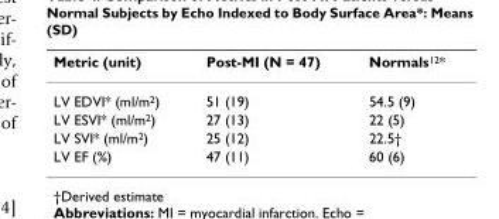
<table><thead><tr><td>Metric (unit)</td><td>Post-MI (N = 47)</td><td>Normals<sup>12</sup>*</td></tr></thead><tbody><tr><td>LV EDVI* (ml/m<sup>2</sup>)</td><td>51 (19)</td><td>54.5 (9)</td></tr><tr><td>LV ESVI* (ml/m<sup>2</sup>)</td><td>27 (13)</td><td>22 (5)</td></tr><tr><td>LV SVI* (ml/m<sup>2</sup>)</td><td>25 (12)</td><td>22.5†</td></tr><tr><td>LV EF (%)</td><td>47 (11)</td><td>60 (6)</td></tr></tbody></table>